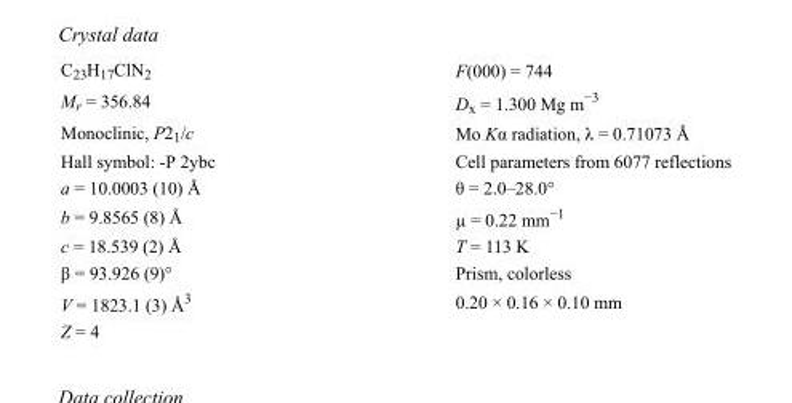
<table><tbody><tr><td>C<sub>23</sub>H<sub>17</sub>ClN<sub>2</sub></td><td>F(000) = 744</td></tr><tr><td>M<sub>r</sub> = 356.84</td><td>D<sub>x</sub> = 1.300 Mg m<sup>−3</sup></td></tr><tr><td>Monoclinic, P2<sub>1</sub>/c</td><td>Mo Kα radiation, λ = 0.71073 Å</td></tr><tr><td>Hall symbol: -P 2ybc</td><td>Cell parameters from 6077 reflections</td></tr><tr><td>a = 10.0003 (10) Å</td><td>θ = 2.0–28.0°</td></tr><tr><td>b = 9.8565 (8) Å</td><td>µ = 0.22 mm<sup>−1</sup></td></tr><tr><td>c = 18.539 (2) Å</td><td>T = 113 K</td></tr><tr><td>β = 93.926 (9)°</td><td>Prism, colorless</td></tr><tr><td>V = 1823.1 (3) Å<sup>3</sup></td><td>0.20 × 0.16 × 0.10 mm</td></tr><tr><td>Z = 4</td><td></td></tr></tbody></table>